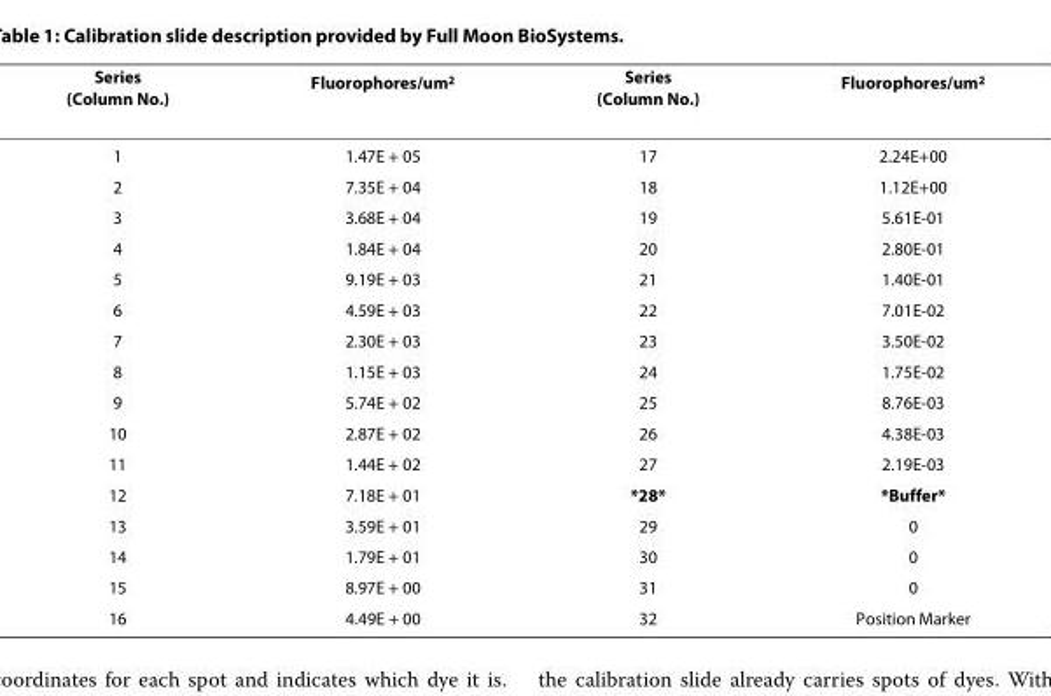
<table><thead><tr><td>Series (Column No.)</td><td>Fluorophores/um<sup>2</sup></td><td>Series (Column No.)</td><td>Fluorophores/um<sup>2</sup></td></tr></thead><tbody><tr><td>1</td><td>1.47E + 05</td><td>17</td><td>2.24E+00</td></tr><tr><td>2</td><td>7.35E + 04</td><td>18</td><td>1.12E+00</td></tr><tr><td>3</td><td>3.68E + 04</td><td>19</td><td>5.61E-01</td></tr><tr><td>4</td><td>1.84E + 04</td><td>20</td><td>2.80E-01</td></tr><tr><td>5</td><td>9.19E + 03</td><td>21</td><td>1.40E-01</td></tr><tr><td>6</td><td>4.59E + 03</td><td>22</td><td>7.01E-02</td></tr><tr><td>7</td><td>2.30E + 03</td><td>23</td><td>3.50E-02</td></tr><tr><td>8</td><td>1.15E + 03</td><td>24</td><td>1.75E-02</td></tr><tr><td>9</td><td>5.74E + 02</td><td>25</td><td>8.76E-03</td></tr><tr><td>10</td><td>2.87E + 02</td><td>26</td><td>4.38E-03</td></tr><tr><td>11</td><td>1.44E + 02</td><td>27</td><td>2.19E-03</td></tr><tr><td>12</td><td>7.18E + 01</td><td>*28*</td><td>*Buffer*</td></tr><tr><td>13</td><td>3.59E + 01</td><td>29</td><td>0</td></tr><tr><td>14</td><td>1.79E + 01</td><td>30</td><td>0</td></tr><tr><td>15</td><td>8.97E + 00</td><td>31</td><td>0</td></tr><tr><td>16</td><td>4.49E + 00</td><td>32</td><td>Position Marker</td></tr></tbody></table>